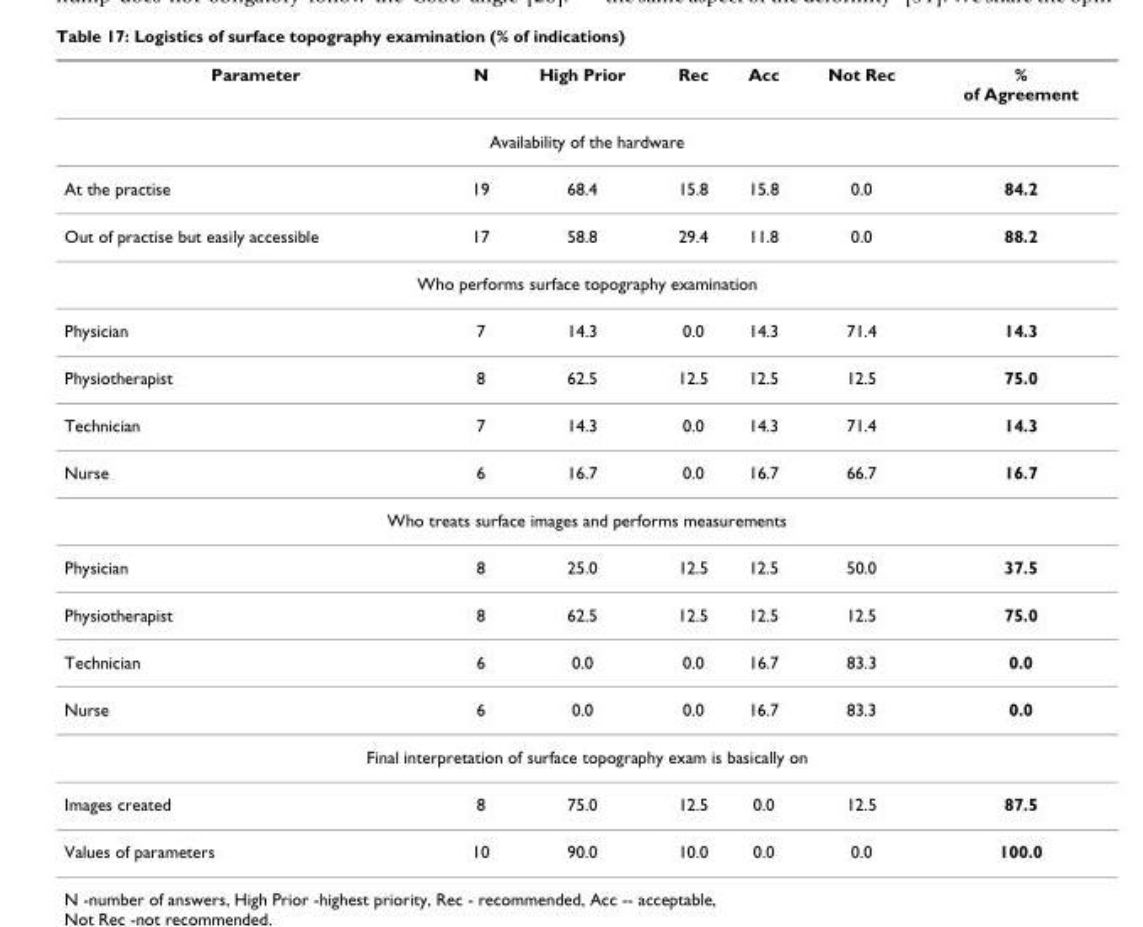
<table><thead><tr><td>Parameter</td><td>N</td><td>High Prior</td><td>Rec</td><td>Acc</td><td>Not Rec</td><td>% of Agreement</td></tr></thead><tbody><tr><td colspan="7">Availability of the hardware</td></tr><tr><td>At the practise</td><td>19</td><td>68.4</td><td>15.8</td><td>15.8</td><td>0.0</td><td>84.2</td></tr><tr><td>Out of practise but easily accessible</td><td>17</td><td>58.8</td><td>29.4</td><td>11.8</td><td>0.0</td><td>88.2</td></tr><tr><td colspan="7">Who performs surface topography examination</td></tr><tr><td>Physician</td><td>7</td><td>14.3</td><td>0.0</td><td>14.3</td><td>71.4</td><td>14.3</td></tr><tr><td>Physiotherapist</td><td>8</td><td>62.5</td><td>12.5</td><td>12.5</td><td>12.5</td><td>75.0</td></tr><tr><td>Technician</td><td>7</td><td>14.3</td><td>0.0</td><td>14.3</td><td>71.4</td><td>14.3</td></tr><tr><td>Nurse</td><td>6</td><td>16.7</td><td>0.0</td><td>16.7</td><td>66.7</td><td>16.7</td></tr><tr><td colspan="7">Who treats surface images and performs measurements</td></tr><tr><td>Physician</td><td>8</td><td>25.0</td><td>12.5</td><td>12.5</td><td>50.0</td><td>37.5</td></tr><tr><td>Physiotherapist</td><td>8</td><td>62.5</td><td>12.5</td><td>12.5</td><td>12.5</td><td>75.0</td></tr><tr><td>Technician</td><td>6</td><td>0.0</td><td>0.0</td><td>16.7</td><td>83.3</td><td>0.0</td></tr><tr><td>Nurse</td><td>6</td><td>0.0</td><td>0.0</td><td>16.7</td><td>83.3</td><td>0.0</td></tr><tr><td colspan="7">Final interpretation of surface topography exam is basically on</td></tr><tr><td>Images created</td><td>8</td><td>75.0</td><td>12.5</td><td>0.0</td><td>12.5</td><td>87.5</td></tr><tr><td>Values of parameters</td><td>10</td><td>90.0</td><td>10.0</td><td>0.0</td><td>0.0</td><td>100.0</td></tr></tbody></table>